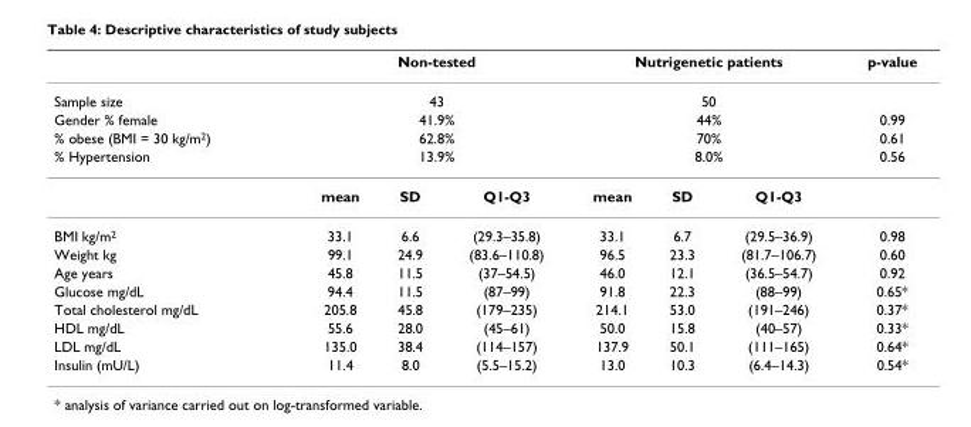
<table><thead><tr><td></td><td colspan="3">Non-tested</td><td colspan="3">Nutrigenetic patients</td><td>p-value</td></tr></thead><tbody><tr><td>Sample size</td><td colspan="3">43</td><td colspan="3">50</td><td></td></tr><tr><td>Gender % female</td><td colspan="3">41.9%</td><td colspan="3">44%</td><td>0.99</td></tr><tr><td>% obese (BMI = 30 kg/m<sup>2</sup>)</td><td colspan="3">62.8%</td><td colspan="3">70%</td><td>0.61</td></tr><tr><td rowspan="2">% Hypertension</td><td colspan="3">13.9%</td><td colspan="3">8.0%</td><td>0.56</td></tr><tr><td>mean</td><td>SD</td><td>Q1-Q3</td><td>mean</td><td>SD</td><td>Q1-Q3</td><td></td></tr><tr><td>BMI kg/m<sup>2</sup></td><td>33.1</td><td>6.6</td><td>(29.3–35.8)</td><td>33.1</td><td>6.7</td><td>(29.5–36.9)</td><td>0.98</td></tr><tr><td>Weight kg</td><td>99.1</td><td>24.9</td><td>(83.6–110.8)</td><td>96.5</td><td>23.3</td><td>(81.7–106.7)</td><td>0.60</td></tr><tr><td>Age years</td><td>45.8</td><td>11.5</td><td>(37–54.5)</td><td>46.0</td><td>12.1</td><td>(36.5–54.7)</td><td>0.92</td></tr><tr><td>Glucose mg/dL</td><td>94.4</td><td>11.5</td><td>(87–99)</td><td>91.8</td><td>22.3</td><td>(88–99)</td><td>0.65*</td></tr><tr><td>Total cholesterol mg/dL</td><td>205.8</td><td>45.8</td><td>(179–235)</td><td>214.1</td><td>53.0</td><td>(191–246)</td><td>0.37*</td></tr><tr><td>HDL mg/dL</td><td>55.6</td><td>28.0</td><td>(45–61)</td><td>50.0</td><td>15.8</td><td>(40–57)</td><td>0.33*</td></tr><tr><td>LDL mg/dL</td><td>135.0</td><td>38.4</td><td>(114–157)</td><td>137.9</td><td>50.1</td><td>(111–165)</td><td>0.64*</td></tr><tr><td>Insulin (mU/L)</td><td>11.4</td><td>8.0</td><td>(5.5–15.2)</td><td>13.0</td><td>10.3</td><td>(6.4–14.3)</td><td>0.54*</td></tr></tbody></table>